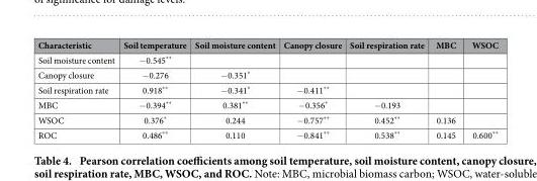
<table><thead><tr><td>Characteristic</td><td>Soil temperature</td><td>Soil moisture content</td><td>Canopy closure</td><td>Soil respiration rate</td><td>MBC</td><td>WSOC</td></tr></thead><tbody><tr><td>Soil moisture content</td><td>− 0.545**</td><td></td><td></td><td></td><td></td><td></td></tr><tr><td>Canopy closure</td><td>− 0.276</td><td>− 0.351*</td><td></td><td></td><td></td><td></td></tr><tr><td>Soil respiration rate</td><td>0.918**</td><td>− 0.341*</td><td>− 0.411**</td><td></td><td></td><td></td></tr><tr><td>MBC</td><td>− 0.394**</td><td>0.381**</td><td>− 0.356*</td><td>− 0.193</td><td></td><td></td></tr><tr><td>WSOC</td><td>0.376*</td><td>0.244</td><td>− 0.757**</td><td>0.452**</td><td>0.136</td><td></td></tr><tr><td>ROC</td><td>0.486**</td><td>0.110</td><td>− 0.841**</td><td>0.538**</td><td>0.145</td><td>0.600**</td></tr></tbody></table>